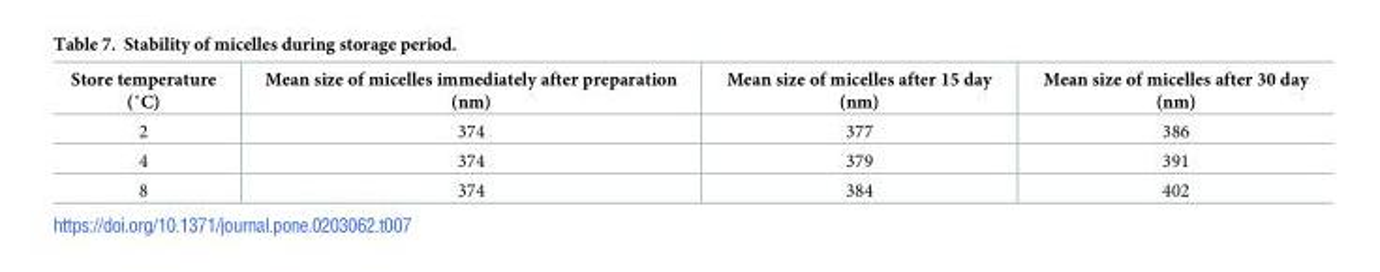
<table><thead><tr><td>Store temperature (˚C)</td><td>Mean size of micelles immediately after preparation (nm)</td><td>Mean size of micelles after 15 day (nm)</td><td>Mean size of micelles after 30 day (nm)</td></tr></thead><tbody><tr><td>2</td><td>374</td><td>377</td><td>386</td></tr><tr><td>4</td><td>374</td><td>379</td><td>391</td></tr><tr><td>8</td><td>374</td><td>384</td><td>402</td></tr></tbody></table>